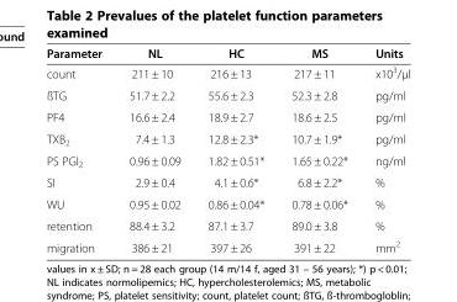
<table><thead><tr><td>Parameter</td><td>NL</td><td>HC</td><td>MS</td><td>Units</td></tr></thead><tbody><tr><td>count</td><td>211 ± 10</td><td>216 ± 13</td><td>217 ± 11</td><td>x10<sup>3</sup>/μl</td></tr><tr><td>ßTG</td><td>51.7 ± 2.2</td><td>55.6 ± 2.3</td><td>52.3 ± 2.8</td><td>pg/ml</td></tr><tr><td>PF4</td><td>16.6 ± 2.4</td><td>18.9 ± 2.7</td><td>18.6 ± 2.5</td><td>pg/ml</td></tr><tr><td>TXB<sub>2</sub></td><td>7.4 ± 1.3</td><td>12.8 ± 2.3*</td><td>10.7 ± 1.9*</td><td>pg/ml</td></tr><tr><td>PS PGI<sub>2</sub></td><td>0.96 ± 0.09</td><td>1.82 ± 0.51*</td><td>1.65 ± 0.22*</td><td>ng/ml</td></tr><tr><td>SI</td><td>2.9 ± 0.4</td><td>4.1 ± 0.6*</td><td>6.8 ± 2.2*</td><td>%</td></tr><tr><td>WU</td><td>0.95 ± 0.02</td><td>0.86 ± 0.04*</td><td>0.78 ± 0.06*</td><td>%</td></tr><tr><td>retention</td><td>88.4 ± 3.2</td><td>87.1 ± 3.7</td><td>89.0 ± 3.8</td><td>%</td></tr><tr><td>migration</td><td>386 ± 21</td><td>397 ± 26</td><td>391 ± 22</td><td>mm<sup>2</sup></td></tr></tbody></table>